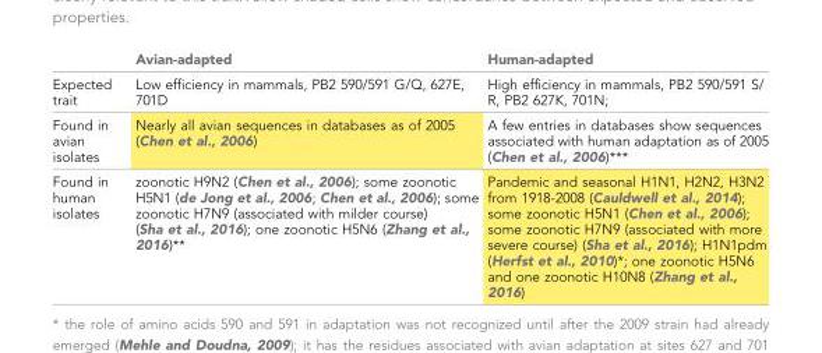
<table><thead><tr><td></td><td>Avian-adapted</td><td>Human-adapted</td></tr></thead><tbody><tr><td>Expected trait</td><td>Low efficiency in mammals, PB2 590/591 G/Q, 627E, 701D</td><td>High efficiency in mammals, PB2 590/591 S/ R, PB2 627K, 701N;</td></tr><tr><td>Found in avian isolates</td><td>Nearly all avian sequences in databases as of 2005 (Chen et al., 2006)</td><td>A few entries in databases show sequences associated with human adaptation as of 2005 (Chen et al., 2006)***</td></tr><tr><td>Found in human isolates</td><td>zoonotic H9N2 (Chen et al., 2006); some zoonotic H5N1 (de Jong et al., 2006; Chen et al., 2006); some zoonotic H7N9 (associated with milder course) (Sha et al., 2016); one zoonotic H5N6 (Zhang et al., 2016)**</td><td>Pandemic and seasonal H1N1, H2N2, H3N2 from 1918-2008 (Cauldwell et al., 2014); some zoonotic H5N1 (Chen et al., 2006); some zoonotic H7N9 (associated with more severe course) (Sha et al., 2016); H1N1pdm (Herfst et al., 2010)*; one zoonotic H5N6 and one zoonotic H10N8 (Zhang et al., 2016)</td></tr></tbody></table>